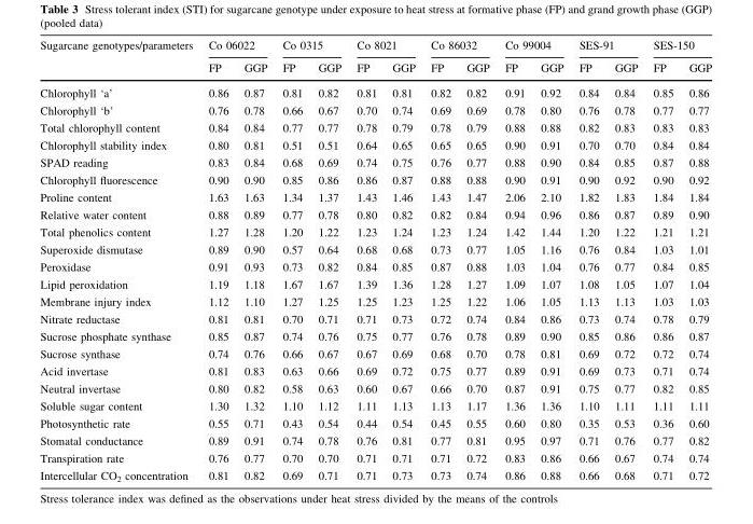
<table><thead><tr><td rowspan="2">Sugarcane genotypes/parameters</td><td colspan="2">Co 06022</td><td colspan="2">Co 0315</td><td colspan="2">Co 8021</td><td colspan="2">Co 86032</td><td colspan="2">Co 99004</td><td colspan="2">SES-91</td><td colspan="2">SES-150</td></tr><tr><td>FP</td><td>GGP</td><td>FP</td><td>GGP</td><td>FP</td><td>GGP</td><td>FP</td><td>GGP</td><td>FP</td><td>GGP</td><td>FP</td><td>GGP</td><td>FP</td><td>GGP</td></tr></thead><tbody><tr><td>Chlorophyll ‘a’</td><td>0.86</td><td>0.87</td><td>0.81</td><td>0.82</td><td>0.81</td><td>0.81</td><td>0.82</td><td>0.82</td><td>0.91</td><td>0.92</td><td>0.84</td><td>0.84</td><td>0.85</td><td>0.86</td></tr><tr><td>Chlorophyll ‘b’</td><td>0.76</td><td>0.78</td><td>0.66</td><td>0.67</td><td>0.70</td><td>0.74</td><td>0.69</td><td>0.69</td><td>0.78</td><td>0.80</td><td>0.76</td><td>0.78</td><td>0.77</td><td>0.77</td></tr><tr><td>Total chlorophyll content</td><td>0.84</td><td>0.84</td><td>0.77</td><td>0.77</td><td>0.78</td><td>0.79</td><td>0.78</td><td>0.79</td><td>0.88</td><td>0.88</td><td>0.82</td><td>0.83</td><td>0.83</td><td>0.83</td></tr><tr><td>Chlorophyll stability index</td><td>0.80</td><td>0.81</td><td>0.51</td><td>0.51</td><td>0.64</td><td>0.65</td><td>0.65</td><td>0.65</td><td>0.90</td><td>0.91</td><td>0.70</td><td>0.70</td><td>0.84</td><td>0.84</td></tr><tr><td>SPAD reading</td><td>0.83</td><td>0.84</td><td>0.68</td><td>0.69</td><td>0.74</td><td>0.75</td><td>0.76</td><td>0.77</td><td>0.88</td><td>0.90</td><td>0.84</td><td>0.85</td><td>0.87</td><td>0.88</td></tr><tr><td>Chlorophyll fluorescence</td><td>0.90</td><td>0.90</td><td>0.85</td><td>0.86</td><td>0.86</td><td>0.87</td><td>0.88</td><td>0.88</td><td>0.90</td><td>0.91</td><td>0.90</td><td>0.92</td><td>0.90</td><td>0.92</td></tr><tr><td>Proline content</td><td>1.63</td><td>1.63</td><td>1.34</td><td>1.37</td><td>1.43</td><td>1.46</td><td>1.43</td><td>1.47</td><td>2.06</td><td>2.10</td><td>1.82</td><td>1.83</td><td>1.84</td><td>1.84</td></tr><tr><td>Relative water content</td><td>0.88</td><td>0.89</td><td>0.77</td><td>0.78</td><td>0.80</td><td>0.82</td><td>0.82</td><td>0.84</td><td>0.94</td><td>0.96</td><td>0.86</td><td>0.87</td><td>0.89</td><td>0.90</td></tr><tr><td>Total phenolics content</td><td>1.27</td><td>1.28</td><td>1.20</td><td>1.22</td><td>1.23</td><td>1.24</td><td>1.23</td><td>1.24</td><td>1.42</td><td>1.44</td><td>1.20</td><td>1.22</td><td>1.21</td><td>1.21</td></tr><tr><td>Superoxide dismutase</td><td>0.89</td><td>0.90</td><td>0.57</td><td>0.64</td><td>0.68</td><td>0.68</td><td>0.73</td><td>0.77</td><td>1.05</td><td>1.16</td><td>0.76</td><td>0.84</td><td>1.03</td><td>1.01</td></tr><tr><td>Peroxidase</td><td>0.91</td><td>0.93</td><td>0.73</td><td>0.82</td><td>0.84</td><td>0.85</td><td>0.87</td><td>0.88</td><td>1.03</td><td>1.04</td><td>0.76</td><td>0.77</td><td>0.84</td><td>0.85</td></tr><tr><td>Lipid peroxidation</td><td>1.19</td><td>1.18</td><td>1.67</td><td>1.67</td><td>1.39</td><td>1.36</td><td>1.28</td><td>1.27</td><td>1.09</td><td>1.07</td><td>1.08</td><td>1.05</td><td>1.07</td><td>1.04</td></tr><tr><td>Membrane injury index</td><td>1.12</td><td>1.10</td><td>1.27</td><td>1.25</td><td>1.25</td><td>1.23</td><td>1.25</td><td>1.22</td><td>1.06</td><td>1.05</td><td>1.13</td><td>1.13</td><td>1.03</td><td>1.03</td></tr><tr><td>Nitrate reductase</td><td>0.81</td><td>0.81</td><td>0.70</td><td>0.71</td><td>0.71</td><td>0.73</td><td>0.72</td><td>0.74</td><td>0.84</td><td>0.86</td><td>0.73</td><td>0.74</td><td>0.78</td><td>0.79</td></tr><tr><td>Sucrose phosphate synthase</td><td>0.85</td><td>0.87</td><td>0.74</td><td>0.76</td><td>0.75</td><td>0.77</td><td>0.76</td><td>0.78</td><td>0.89</td><td>0.90</td><td>0.85</td><td>0.86</td><td>0.86</td><td>0.87</td></tr><tr><td>Sucrose synthase</td><td>0.74</td><td>0.76</td><td>0.66</td><td>0.67</td><td>0.67</td><td>0.69</td><td>0.68</td><td>0.70</td><td>0.78</td><td>0.81</td><td>0.69</td><td>0.72</td><td>0.72</td><td>0.74</td></tr><tr><td>Acid invertase</td><td>0.81</td><td>0.83</td><td>0.63</td><td>0.66</td><td>0.69</td><td>0.72</td><td>0.75</td><td>0.77</td><td>0.89</td><td>0.91</td><td>0.69</td><td>0.73</td><td>0.71</td><td>0.74</td></tr><tr><td>Neutral invertase</td><td>0.80</td><td>0.82</td><td>0.58</td><td>0.63</td><td>0.60</td><td>0.67</td><td>0.66</td><td>0.70</td><td>0.87</td><td>0.91</td><td>0.75</td><td>0.77</td><td>0.82</td><td>0.85</td></tr><tr><td>Soluble sugar content</td><td>1.30</td><td>1.32</td><td>1.10</td><td>1.12</td><td>1.11</td><td>1.13</td><td>1.13</td><td>1.17</td><td>1.36</td><td>1.36</td><td>1.10</td><td>1.11</td><td>1.11</td><td>1.11</td></tr><tr><td>Photosynthetic rate</td><td>0.55</td><td>0.71</td><td>0.43</td><td>0.54</td><td>0.44</td><td>0.54</td><td>0.45</td><td>0.55</td><td>0.60</td><td>0.80</td><td>0.35</td><td>0.53</td><td>0.36</td><td>0.60</td></tr><tr><td>Stomatal conductance</td><td>0.89</td><td>0.91</td><td>0.74</td><td>0.78</td><td>0.76</td><td>0.81</td><td>0.77</td><td>0.81</td><td>0.95</td><td>0.97</td><td>0.71</td><td>0.76</td><td>0.77</td><td>0.82</td></tr><tr><td>Transpiration rate</td><td>0.76</td><td>0.77</td><td>0.70</td><td>0.70</td><td>0.71</td><td>0.71</td><td>0.71</td><td>0.72</td><td>0.83</td><td>0.86</td><td>0.66</td><td>0.67</td><td>0.74</td><td>0.74</td></tr><tr><td>Intercellular CO<sub>2</sub> concentration</td><td>0.81</td><td>0.82</td><td>0.69</td><td>0.71</td><td>0.71</td><td>0.73</td><td>0.73</td><td>0.74</td><td>0.86</td><td>0.88</td><td>0.66</td><td>0.68</td><td>0.71</td><td>0.72</td></tr></tbody></table>